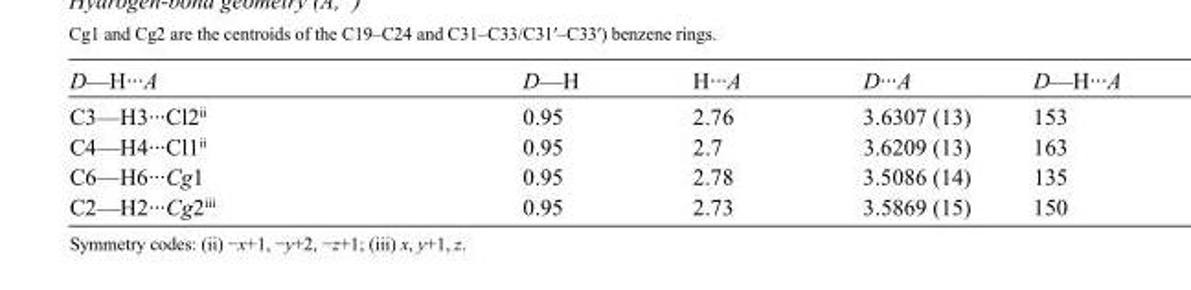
<table><tbody><tr><td>D—H···A</td><td>D—H</td><td>H···A</td><td>D···A</td><td>D—H···A</td></tr><tr><td>C3—H3···Cl2<sup>ii</sup></td><td>0.95</td><td>2.76</td><td>3.6307 (13)</td><td>153</td></tr><tr><td>C4—H4···Cl1<sup>ii</sup></td><td>0.95</td><td>2.7</td><td>3.6209 (13)</td><td>163</td></tr><tr><td>C6—H6···Cg1</td><td>0.95</td><td>2.78</td><td>3.5086 (14)</td><td>135</td></tr><tr><td>C2—H2···Cg2<sup>iii</sup></td><td>0.95</td><td>2.73</td><td>3.5869 (15)</td><td>150</td></tr></tbody></table>